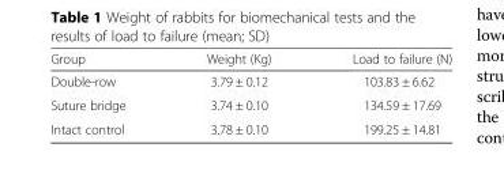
<table><thead><tr><td>Group</td><td>Weight (Kg)</td><td>Load to failure (N)</td></tr></thead><tbody><tr><td>Double-row</td><td>3.79 ± 0.12</td><td>103.83 ± 6.62</td></tr><tr><td>Suture bridge</td><td>3.74 ± 0.10</td><td>134.59 ± 17.69</td></tr><tr><td>Intact control</td><td>3.78 ± 0.10</td><td>199.25 ± 14.81</td></tr></tbody></table>